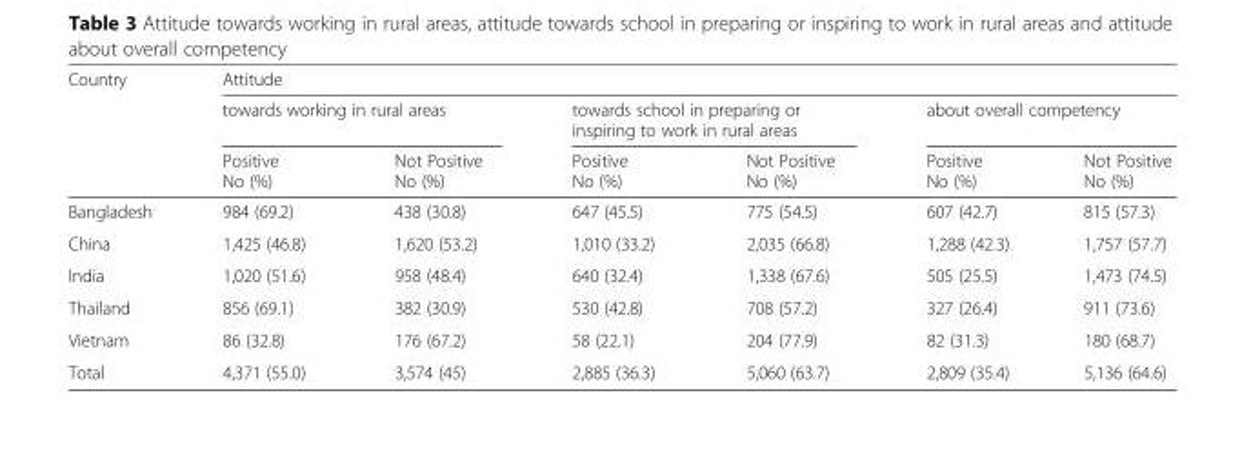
<table><thead><tr><td rowspan="3">Country</td><td colspan="6">Attitude</td></tr><tr><td colspan="2">towards working in rural areas</td><td colspan="2">towards school in preparing or inspiring to work in rural areas</td><td colspan="2">about overall competency</td></tr><tr><td>Positive No (%)</td><td>Not Positive No (%)</td><td>Positive No (%)</td><td>Not Positive No (%)</td><td>Positive No (%)</td><td>Not Positive No (%)</td></tr></thead><tbody><tr><td>Bangladesh</td><td>984 (69.2)</td><td>438 (30.8)</td><td>647 (45.5)</td><td>775 (54.5)</td><td>607 (42.7)</td><td>815 (57.3)</td></tr><tr><td>China</td><td>1,425 (46.8)</td><td>1,620 (53.2)</td><td>1,010 (33.2)</td><td>2,035 (66.8)</td><td>1,288 (42.3)</td><td>1,757 (57.7)</td></tr><tr><td>India</td><td>1,020 (51.6)</td><td>958 (48.4)</td><td>640 (32.4)</td><td>1,338 (67.6)</td><td>505 (25.5)</td><td>1,473 (74.5)</td></tr><tr><td>Thailand</td><td>856 (69.1)</td><td>382 (30.9)</td><td>530 (42.8)</td><td>708 (57.2)</td><td>327 (26.4)</td><td>911 (73.6)</td></tr><tr><td>Vietnam</td><td>86 (32.8)</td><td>176 (67.2)</td><td>58 (22.1)</td><td>204 (77.9)</td><td>82 (31.3)</td><td>180 (68.7)</td></tr><tr><td>Total</td><td>4,371 (55.0)</td><td>3,574 (45)</td><td>2,885 (36.3)</td><td>5,060 (63.7)</td><td>2,809 (35.4)</td><td>5,136 (64.6)</td></tr></tbody></table>